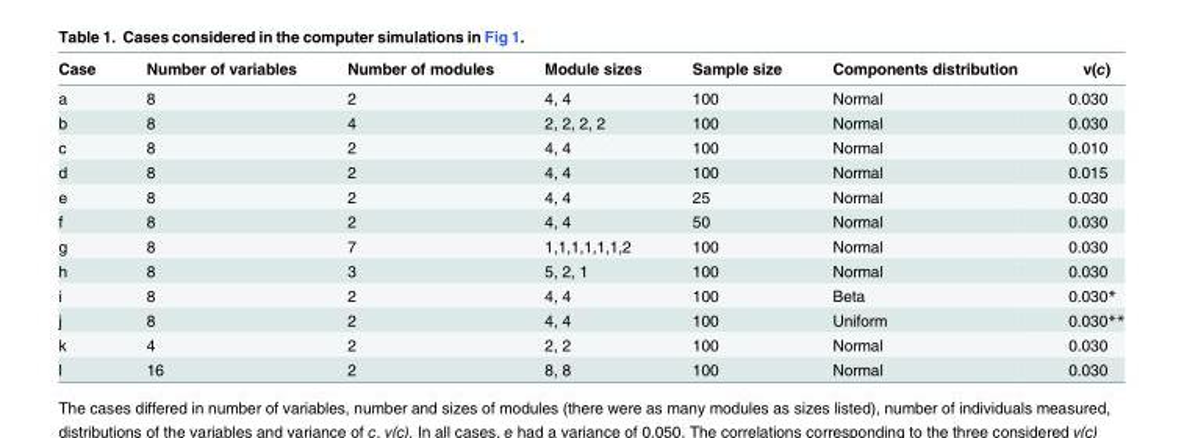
<table><thead><tr><td>Case</td><td>Number of variables</td><td>Number of modules</td><td>Module sizes</td><td>Sample size</td><td>Components distribution</td><td>v(c)</td></tr></thead><tbody><tr><td>a</td><td>8</td><td>2</td><td>4, 4</td><td>100</td><td>Normal</td><td>0.030</td></tr><tr><td>b</td><td>8</td><td>4</td><td>2, 2, 2, 2</td><td>100</td><td>Normal</td><td>0.030</td></tr><tr><td>c</td><td>8</td><td>2</td><td>4, 4</td><td>100</td><td>Normal</td><td>0.010</td></tr><tr><td>d</td><td>8</td><td>2</td><td>4, 4</td><td>100</td><td>Normal</td><td>0.015</td></tr><tr><td>e</td><td>8</td><td>2</td><td>4, 4</td><td>25</td><td>Normal</td><td>0.030</td></tr><tr><td>f</td><td>8</td><td>2</td><td>4, 4</td><td>50</td><td>Normal</td><td>0.030</td></tr><tr><td>g</td><td>8</td><td>7</td><td>1,1,1,1,1,1,2</td><td>100</td><td>Normal</td><td>0.030</td></tr><tr><td>h</td><td>8</td><td>3</td><td>5, 2, 1</td><td>100</td><td>Normal</td><td>0.030</td></tr><tr><td>i</td><td>8</td><td>2</td><td>4, 4</td><td>100</td><td>Beta</td><td>0.030*</td></tr><tr><td>j</td><td>8</td><td>2</td><td>4, 4</td><td>100</td><td>Uniform</td><td>0.030**</td></tr><tr><td>k</td><td>4</td><td>2</td><td>2, 2</td><td>100</td><td>Normal</td><td>0.030</td></tr><tr><td>l</td><td>16</td><td>2</td><td>8, 8</td><td>100</td><td>Normal</td><td>0.030</td></tr></tbody></table>